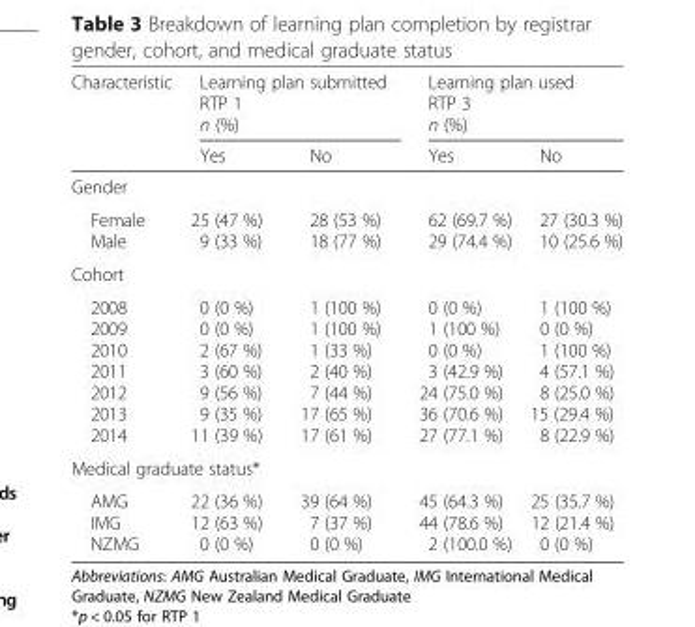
<table><thead><tr><td rowspan="2">Characteristic</td><td colspan="2">Learning plan submitted RTP 1 n (%)</td><td colspan="2">Learning plan used RTP 3 n (%)</td></tr><tr><td>Yes</td><td>No</td><td>Yes</td><td>No</td></tr></thead><tbody><tr><td colspan="5">Gender</td></tr><tr><td>Female Male</td><td>25 (47 %) 9 (33 %)</td><td>28 (53 %) 18 (77 %)</td><td>62 (69.7 %) 29 (74.4 %)</td><td>27 (30.3 %) 10 (25.6 %)</td></tr><tr><td colspan="5">Cohort</td></tr><tr><td>2008 2009 2010 2011 2012 2013 2014</td><td>0 (0 %) 0 (0 %) 2 (67 %) 3 (60 %) 9 (56 %) 9 (35 %) 11 (39 %)</td><td>1 (100 %) 1 (100 %) 1 (33 %) 2 (40 %) 7 (44 %) 17 (65 %) 17 (61 %)</td><td>0 (0 %) 1 (100 %) 0 (0 %) 3 (42.9 %) 24 (75.0 %) 36 (70.6 %) 27 (77.1 %)</td><td>1 (100 %) 0 (0 %) 1 (100 %) 4 (57.1 %) 8 (25.0 %) 15 (29.4 %) 8 (22.9 %)</td></tr><tr><td colspan="5">Medical graduate status*</td></tr><tr><td>AMG IMG NZMG</td><td>22 (36 %) 12 (63 %) 0 (0 %)</td><td>39 (64 %) 7 (37 %) 0 (0 %)</td><td>45 (64.3 %) 44 (78.6 %) 2 (100.0 %)</td><td>25 (35.7 %) 12 (21.4 %) 0 (0 %)</td></tr></tbody></table>